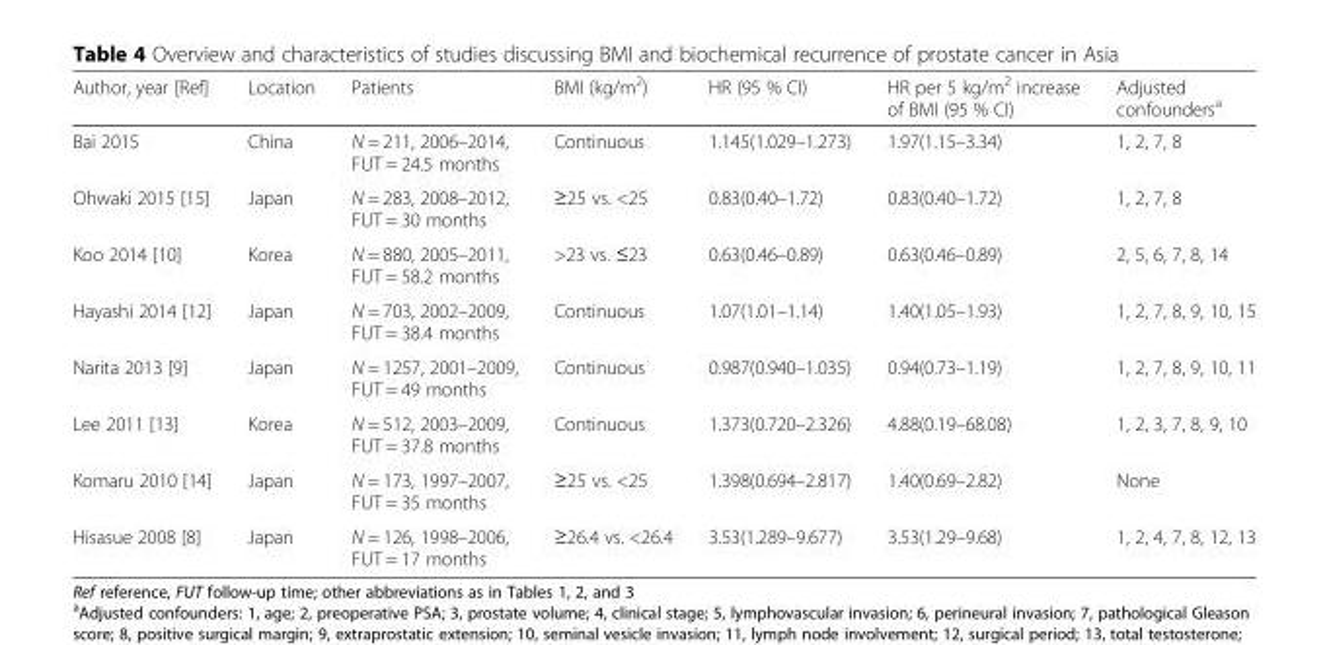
<table><thead><tr><td>Author, year [Ref]</td><td>Location</td><td>Patients</td><td>BMI (kg/m<sup>2</sup>)</td><td>HR (95 % CI)</td><td>HR per 5 kg/m<sup>2</sup> increase of BMI (95 % CI)</td><td>Adjusted confounders<sup>a</sup></td></tr></thead><tbody><tr><td>Bai 2015</td><td>China</td><td>N = 211, 2006–2014, FUT = 24.5 months</td><td>Continuous</td><td>1.145(1.029–1.273)</td><td>1.97(1.15–3.34)</td><td>1, 2, 7, 8</td></tr><tr><td>Ohwaki 2015 [15]</td><td>Japan</td><td>N = 283, 2008–2012, FUT = 30 months</td><td>≥25 vs. &lt;25</td><td>0.83(0.40–1.72)</td><td>0.83(0.40–1.72)</td><td>1, 2, 7, 8</td></tr><tr><td>Koo 2014 [10]</td><td>Korea</td><td>N = 880, 2005–2011, FUT = 58.2 months</td><td>&gt;23 vs. ≤23</td><td>0.63(0.46–0.89)</td><td>0.63(0.46–0.89)</td><td>2, 5, 6, 7, 8, 14</td></tr><tr><td>Hayashi 2014 [12]</td><td>Japan</td><td>N = 703, 2002–2009, FUT = 38.4 months</td><td>Continuous</td><td>1.07(1.01–1.14)</td><td>1.40(1.05–1.93)</td><td>1, 2, 7, 8, 9, 10, 15</td></tr><tr><td>Narita 2013 [9]</td><td>Japan</td><td>N = 1257, 2001–2009, FUT = 49 months</td><td>Continuous</td><td>0.987(0.940–1.035)</td><td>0.94(0.73–1.19)</td><td>1, 2, 7, 8, 9, 10, 11</td></tr><tr><td>Lee 2011 [13]</td><td>Korea</td><td>N = 512, 2003–2009, FUT = 37.8 months</td><td>Continuous</td><td>1.373(0.720–2.326)</td><td>4.88(0.19–68.08)</td><td>1, 2, 3, 7, 8, 9, 10</td></tr><tr><td>Komaru 2010 [14]</td><td>Japan</td><td>N = 173, 1997–2007, FUT = 35 months</td><td>≥25 vs. &lt;25</td><td>1.398(0.694–2.817)</td><td>1.40(0.69–2.82)</td><td>None</td></tr><tr><td>Hisasue 2008 [8]</td><td>Japan</td><td>N = 126, 1998–2006, FUT = 17 months</td><td>≥26.4 vs. &lt;26.4</td><td>3.53(1.289–9.677)</td><td>3.53(1.29–9.68)</td><td>1, 2, 4, 7, 8, 12, 13</td></tr></tbody></table>